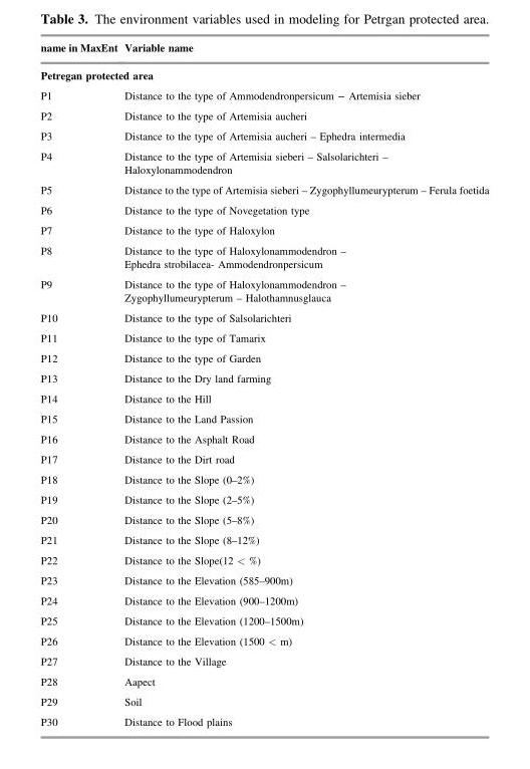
<table><thead><tr><td>name in MaxEnt</td><td>Variable name</td></tr></thead><tbody><tr><td colspan="2">Petregan protected area</td></tr><tr><td>P1</td><td>Distance to the type of Ammodendronpersicum − Artemisia sieber</td></tr><tr><td>P2</td><td>Distance to the type of Artemisia aucheri</td></tr><tr><td>P3</td><td>Distance to the type of Artemisia aucheri – Ephedra intermedia</td></tr><tr><td>P4</td><td>Distance to the type of Artemisia sieberi – Salsolarichteri – Haloxylonammodendron</td></tr><tr><td>P5</td><td>Distance to the type of Artemisia sieberi – Zygophyllumeurypterum – Ferula foetida</td></tr><tr><td>P6</td><td>Distance to the type of Novegetation type</td></tr><tr><td>P7</td><td>Distance to the type of Haloxylon</td></tr><tr><td>P8</td><td>Distance to the type of Haloxylonammodendron – Ephedra strobilacea- Ammodendronpersicum</td></tr><tr><td>P9</td><td>Distance to the type of Haloxylonammodendron – Zygophyllumeurypterum – Halothamnusglauca</td></tr><tr><td>P10</td><td>Distance to the type of Salsolarichteri</td></tr><tr><td>P11</td><td>Distance to the type of Tamarix</td></tr><tr><td>P12</td><td>Distance to the type of Garden</td></tr><tr><td>P13</td><td>Distance to the Dry land farming</td></tr><tr><td>P14</td><td>Distance to the Hill</td></tr><tr><td>P15</td><td>Distance to the Land Passion</td></tr><tr><td>P16</td><td>Distance to the Asphalt Road</td></tr><tr><td>P17</td><td>Distance to the Dirt road</td></tr><tr><td>P18</td><td>Distance to the Slope (0–2%)</td></tr><tr><td>P19</td><td>Distance to the Slope (2–5%)</td></tr><tr><td>P20</td><td>Distance to the Slope (5–8%)</td></tr><tr><td>P21</td><td>Distance to the Slope (8–12%)</td></tr><tr><td>P22</td><td>Distance to the Slope(12 &lt; %)</td></tr><tr><td>P23</td><td>Distance to the Elevation (585–900m)</td></tr><tr><td>P24</td><td>Distance to the Elevation (900–1200m)</td></tr><tr><td>P25</td><td>Distance to the Elevation (1200–1500m)</td></tr><tr><td>P26</td><td>Distance to the Elevation (1500 &lt; m)</td></tr><tr><td>P27</td><td>Distance to the Village</td></tr><tr><td>P28</td><td>Aapect</td></tr><tr><td>P29</td><td>Soil</td></tr><tr><td>P30</td><td>Distance to Flood plains</td></tr></tbody></table>